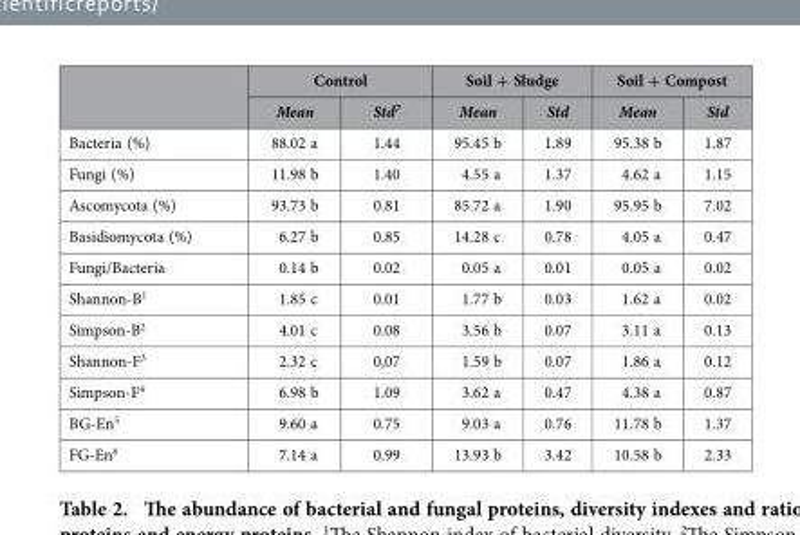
<table><thead><tr><td rowspan="2"></td><td colspan="2">Control</td><td colspan="2">Soil + Sludge</td><td colspan="2">Soil + Compost</td></tr><tr><td>Mean</td><td>Std<sup>7</sup></td><td>Mean</td><td>Std</td><td>Mean</td><td>Std</td></tr></thead><tbody><tr><td>Bacteria (%)</td><td>88.02 a</td><td>1.44</td><td>95.45 b</td><td>1.89</td><td>95.38 b</td><td>1.87</td></tr><tr><td>Fungi (%)</td><td>11.98 b</td><td>1.40</td><td>4.55 a</td><td>1.37</td><td>4.62 a</td><td>1.15</td></tr><tr><td>Ascomycota (%)</td><td>93.73 b</td><td>0.81</td><td>85.72 a</td><td>1.90</td><td>95.95 b</td><td>7.02</td></tr><tr><td>Basidiomycota (%)</td><td>6.27 b</td><td>0.85</td><td>14.28 c</td><td>0.78</td><td>4.05 a</td><td>0.47</td></tr><tr><td>Fungi/Bacteria</td><td>0.14 b</td><td>0.02</td><td>0.05 a</td><td>0.01</td><td>0.05 a</td><td>0.02</td></tr><tr><td>Shannon-B<sup>1</sup></td><td>1.85 c</td><td>0.01</td><td>1.77 b</td><td>0.03</td><td>1.62 a</td><td>0.02</td></tr><tr><td>Simpson-B<sup>2</sup></td><td>4.01 c</td><td>0.08</td><td>3.56 b</td><td>0.07</td><td>3.11 a</td><td>0.13</td></tr><tr><td>Shannon-F<sup>3</sup></td><td>2.32 c</td><td>0,07</td><td>1.59 b</td><td>0.07</td><td>1.86 a</td><td>0.12</td></tr><tr><td>Simpson-F<sup>4</sup></td><td>6.98 b</td><td>1.09</td><td>3.62 a</td><td>0.47</td><td>4.38 a</td><td>0.87</td></tr><tr><td>BG-En<sup>5</sup></td><td>9.60 a</td><td>0.75</td><td>9.03 a</td><td>0.76</td><td>11.78 b</td><td>1.37</td></tr><tr><td>FG-En<sup>6</sup></td><td>7.14 a</td><td>0.99</td><td>13.93 b</td><td>3.42</td><td>10.58 b</td><td>2.33</td></tr></tbody></table>